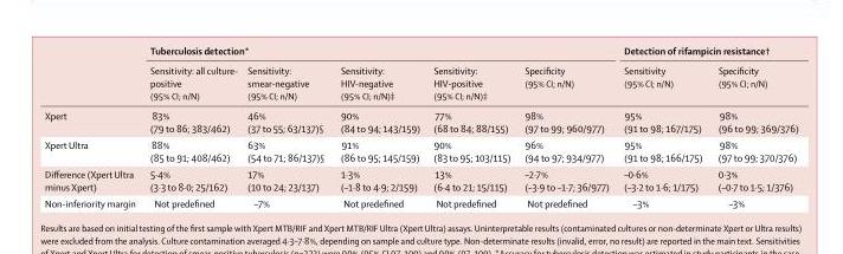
<table><thead><tr><td rowspan="2"></td><td colspan="5">Tuberculosis detection*</td><td colspan="2">Detection of rifampicin resistance†</td></tr><tr><td>Sensitivity: all culture- positive (95% CI; n/N)</td><td>Sensitivity: smear-negative (95% CI; n/N)</td><td>Sensitivity: HIV-negative (95% CI; n/N)‡</td><td>Sensitivity: HIV-positive (95% CI; n/N)‡</td><td>Specificity (95% CI; n/N)</td><td>Sensitivity (95% CI; n/N)</td><td>Specificity (95% CI; n/N)</td></tr></thead><tbody><tr><td>Xpert</td><td>83% (79 to 86; 383/462)</td><td>46% (37 to 55; 63/137)§</td><td>90% (84 to 94; 143/159)</td><td>77% (68 to 84; 88/155)</td><td>98% (97 to 99; 960/977)</td><td>95% (91 to 98; 167/175)</td><td>98% (96 to 99; 369/376)</td></tr><tr><td>Xpert Ultra</td><td>88% (85 to 91; 408/462)</td><td>63% (54 to 71; 86/137)§</td><td>91% (86 to 95; 145/159)</td><td>90% (83 to 95; 103/115)</td><td>96% (94 to 97; 934/977)</td><td>95% (91 to 98; 166/175)</td><td>98% (97 to 99; 370/376)</td></tr><tr><td>Difference (Xpert Ultra minus Xpert)</td><td>5·4% (3·3 to 8·0; 25/162)</td><td>17% (10 to 24; 23/137)</td><td>1·3% (–1·8 to 4·9; 2/159)</td><td>13% (6·4 to 21; 15/115)</td><td>–2·7% (–3·9 to –1·7; 36/977)</td><td>–0·6% (–3·2 to 1·6; 1/175)</td><td>0·3% (–0·7 to 1·5; 1/376)</td></tr><tr><td>Non-inferiority margin</td><td>Not predefined</td><td>–7%</td><td>Not predefined</td><td>Not predefined</td><td>Not predefined</td><td>–3%</td><td>–3%</td></tr></tbody></table>